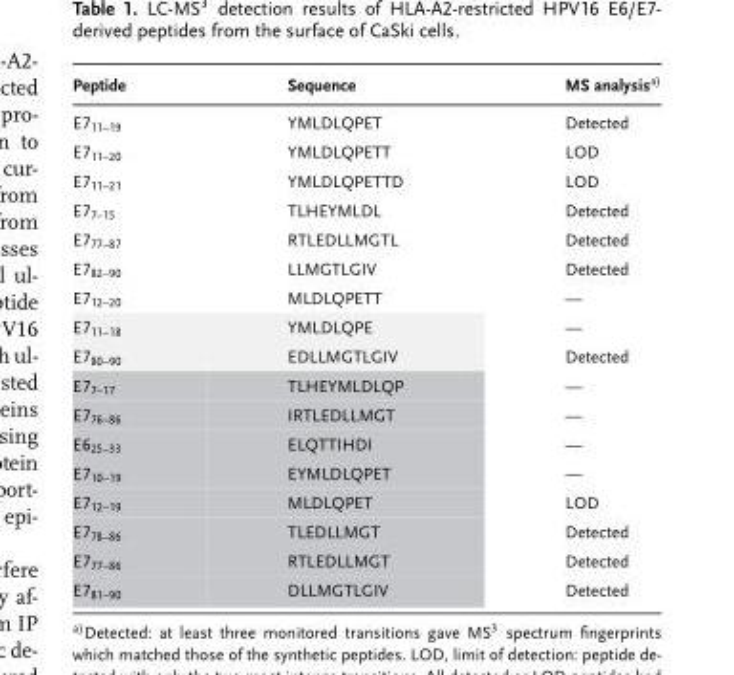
<table><thead><tr><td>Peptide</td><td>Sequence</td><td>MS analysisa)</td></tr></thead><tbody><tr><td>E7<sub>11–19</sub></td><td>YMLDLQPET</td><td>Detected</td></tr><tr><td>E7<sub>11–20</sub></td><td>YMLDLQPETT</td><td>LOD</td></tr><tr><td>E7<sub>11–21</sub></td><td>YMLDLQPETTD</td><td>LOD</td></tr><tr><td>E7<sub>7–15</sub></td><td>TLHEYMLDL</td><td>Detected</td></tr><tr><td>E7<sub>77–87</sub></td><td>RTLEDLLMGTL</td><td>Detected</td></tr><tr><td>E7<sub>82–90</sub></td><td>LLMGTLGIV</td><td>Detected</td></tr><tr><td>E7<sub>12–20</sub></td><td>MLDLQPETT</td><td>—</td></tr><tr><td>E7<sub>11–18</sub></td><td>YMLDLQPE</td><td>—</td></tr><tr><td>E7<sub>80–90</sub></td><td>EDLLMGTLGIV</td><td>Detected</td></tr><tr><td>E7<sub>7–17</sub></td><td>TLHEYMLDLQP</td><td>—</td></tr><tr><td>E7<sub>76–86</sub></td><td>IRTLEDLLMGT</td><td>—</td></tr><tr><td>E6<sub>25–33</sub></td><td>ELQTTIHDI</td><td>—</td></tr><tr><td>E7<sub>10–19</sub></td><td>EYMLDLQPET</td><td>—</td></tr><tr><td>E7<sub>12–19</sub></td><td>MLDLQPET</td><td>LOD</td></tr><tr><td>E7<sub>78–86</sub></td><td>TLEDLLMGT</td><td>Detected</td></tr><tr><td>E7<sub>77–86</sub></td><td>RTLEDLLMGT</td><td>Detected</td></tr><tr><td>E7<sub>81–90</sub></td><td>DLLMGTLGIV</td><td>Detected</td></tr></tbody></table>